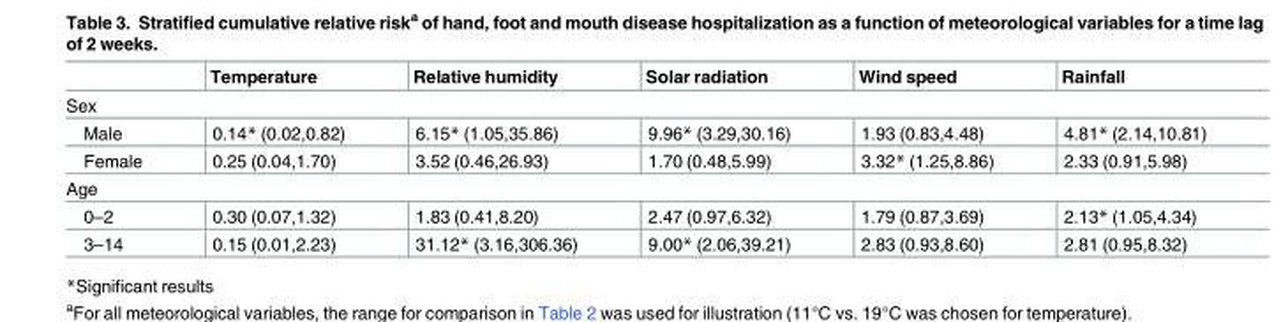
<table><thead><tr><td></td><td>Temperature</td><td>Relative humidity</td><td>Solar radiation</td><td>Wind speed</td><td>Rainfall</td></tr></thead><tbody><tr><td colspan="6">Sex</td></tr><tr><td>Male</td><td>0.14* (0.02,0.82)</td><td>6.15* (1.05,35.86)</td><td>9.96* (3.29,30.16)</td><td>1.93 (0.83,4.48)</td><td>4.81* (2.14,10.81)</td></tr><tr><td>Female</td><td>0.25 (0.04,1.70)</td><td>3.52 (0.46,26.93)</td><td>1.70 (0.48,5.99)</td><td>3.32* (1.25,8.86)</td><td>2.33 (0.91,5.98)</td></tr><tr><td colspan="6">Age</td></tr><tr><td>0–2</td><td>0.30 (0.07,1.32)</td><td>1.83 (0.41,8.20)</td><td>2.47 (0.97,6.32)</td><td>1.79 (0.87,3.69)</td><td>2.13* (1.05,4.34)</td></tr><tr><td>3–14</td><td>0.15 (0.01,2.23)</td><td>31.12* (3.16,306.36)</td><td>9.00* (2.06,39.21)</td><td>2.83 (0.93,8.60)</td><td>2.81 (0.95,8.32)</td></tr></tbody></table>